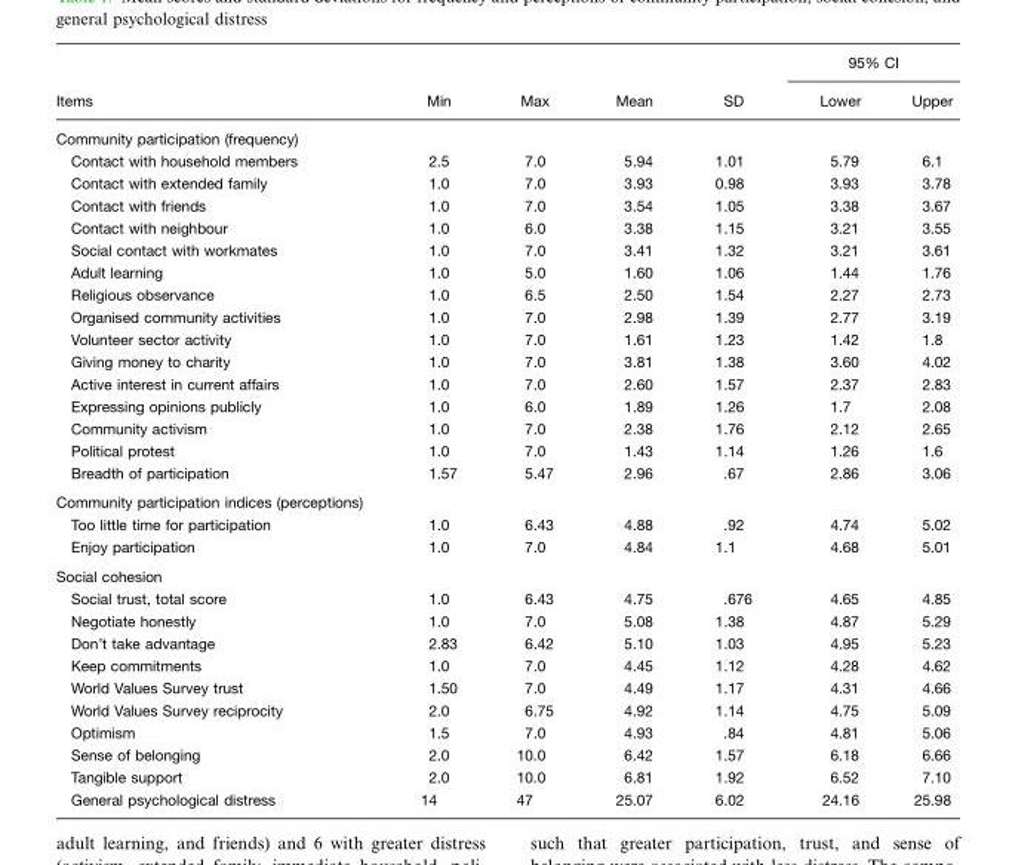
<table><thead><tr><td rowspan="2">Items</td><td rowspan="2">Min</td><td rowspan="2">Max</td><td rowspan="2">Mean</td><td rowspan="2">SD</td><td colspan="2">95% CI</td></tr><tr><td>Lower</td><td>Upper</td></tr></thead><tbody><tr><td colspan="7">Community participation (frequency)</td></tr><tr><td>Contact with household members</td><td>2.5</td><td>7.0</td><td>5.94</td><td>1.01</td><td>5.79</td><td>6.1</td></tr><tr><td>Contact with extended family</td><td>1.0</td><td>7.0</td><td>3.93</td><td>0.98</td><td>3.93</td><td>3.78</td></tr><tr><td>Contact with friends</td><td>1.0</td><td>7.0</td><td>3.54</td><td>1.05</td><td>3.38</td><td>3.67</td></tr><tr><td>Contact with neighbour</td><td>1.0</td><td>6.0</td><td>3.38</td><td>1.15</td><td>3.21</td><td>3.55</td></tr><tr><td>Social contact with workmates</td><td>1.0</td><td>7.0</td><td>3.41</td><td>1.32</td><td>3.21</td><td>3.61</td></tr><tr><td>Adult learning</td><td>1.0</td><td>5.0</td><td>1.60</td><td>1.06</td><td>1.44</td><td>1.76</td></tr><tr><td>Religious observance</td><td>1.0</td><td>6.5</td><td>2.50</td><td>1.54</td><td>2.27</td><td>2.73</td></tr><tr><td>Organised community activities</td><td>1.0</td><td>7.0</td><td>2.98</td><td>1.39</td><td>2.77</td><td>3.19</td></tr><tr><td>Volunteer sector activity</td><td>1.0</td><td>7.0</td><td>1.61</td><td>1.23</td><td>1.42</td><td>1.8</td></tr><tr><td>Giving money to charity</td><td>1.0</td><td>7.0</td><td>3.81</td><td>1.38</td><td>3.60</td><td>4.02</td></tr><tr><td>Active interest in current affairs</td><td>1.0</td><td>7.0</td><td>2.60</td><td>1.57</td><td>2.37</td><td>2.83</td></tr><tr><td>Expressing opinions publicly</td><td>1.0</td><td>6.0</td><td>1.89</td><td>1.26</td><td>1.7</td><td>2.08</td></tr><tr><td>Community activism</td><td>1.0</td><td>7.0</td><td>2.38</td><td>1.76</td><td>2.12</td><td>2.65</td></tr><tr><td>Political protest</td><td>1.0</td><td>7.0</td><td>1.43</td><td>1.14</td><td>1.26</td><td>1.6</td></tr><tr><td>Breadth of participation</td><td>1.57</td><td>5.47</td><td>2.96</td><td>.67</td><td>2.86</td><td>3.06</td></tr><tr><td colspan="7">Community participation indices (perceptions)</td></tr><tr><td>Too little time for participation</td><td>1.0</td><td>6.43</td><td>4.88</td><td>.92</td><td>4.74</td><td>5.02</td></tr><tr><td>Enjoy participation</td><td>1.0</td><td>7.0</td><td>4.84</td><td>1.1</td><td>4.68</td><td>5.01</td></tr><tr><td colspan="7">Social cohesion</td></tr><tr><td>Social trust, total score</td><td>1.0</td><td>6.43</td><td>4.75</td><td>.676</td><td>4.65</td><td>4.85</td></tr><tr><td>Negotiate honestly</td><td>1.0</td><td>7.0</td><td>5.08</td><td>1.38</td><td>4.87</td><td>5.29</td></tr><tr><td>Don’t take advantage</td><td>2.83</td><td>6.42</td><td>5.10</td><td>1.03</td><td>4.95</td><td>5.23</td></tr><tr><td>Keep commitments</td><td>1.0</td><td>7.0</td><td>4.45</td><td>1.12</td><td>4.28</td><td>4.62</td></tr><tr><td>World Values Survey trust</td><td>1.50</td><td>7.0</td><td>4.49</td><td>1.17</td><td>4.31</td><td>4.66</td></tr><tr><td>World Values Survey reciprocity</td><td>2.0</td><td>6.75</td><td>4.92</td><td>1.14</td><td>4.75</td><td>5.09</td></tr><tr><td>Optimism</td><td>1.5</td><td>7.0</td><td>4.93</td><td>.84</td><td>4.81</td><td>5.06</td></tr><tr><td>Sense of belonging</td><td>2.0</td><td>10.0</td><td>6.42</td><td>1.57</td><td>6.18</td><td>6.66</td></tr><tr><td>Tangible support</td><td>2.0</td><td>10.0</td><td>6.81</td><td>1.92</td><td>6.52</td><td>7.10</td></tr><tr><td>General psychological distress</td><td>14</td><td>47</td><td>25.07</td><td>6.02</td><td>24.16</td><td>25.98</td></tr></tbody></table>